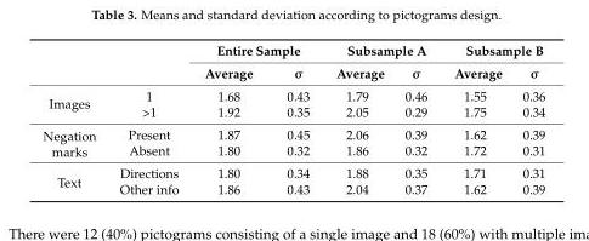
<table><thead><tr><td rowspan="2"></td><td rowspan="2"></td><td colspan="2">Entire Sample</td><td colspan="2">Subsample A</td><td colspan="2">Subsample B</td></tr><tr><td>Average</td><td>σ</td><td>Average</td><td>σ</td><td>Average</td><td>σ</td></tr></thead><tbody><tr><td rowspan="2">Images</td><td>1</td><td>1.68</td><td>0.43</td><td>1.79</td><td>0.46</td><td>1.55</td><td>0.36</td></tr><tr><td>&gt;1</td><td>1.92</td><td>0.35</td><td>2.05</td><td>0.29</td><td>1.75</td><td>0.34</td></tr><tr><td rowspan="2">Negation marks</td><td>Present</td><td>1.87</td><td>0.45</td><td>2.06</td><td>0.39</td><td>1.62</td><td>0.39</td></tr><tr><td>Absent</td><td>1.80</td><td>0.32</td><td>1.86</td><td>0.32</td><td>1.72</td><td>0.31</td></tr><tr><td rowspan="2">Text</td><td>Directions</td><td>1.80</td><td>0.34</td><td>1.88</td><td>0.35</td><td>1.71</td><td>0.31</td></tr><tr><td>Other info</td><td>1.86</td><td>0.43</td><td>2.04</td><td>0.37</td><td>1.62</td><td>0.39</td></tr></tbody></table>